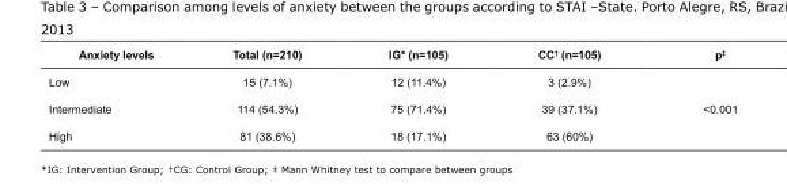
<table><tbody><tr><td>Anxiety levels</td><td>Total (n=210)</td><td>IG* (n=105)</td><td>CC<sup>†</sup> (n=105)</td><td>p<sup>‡</sup></td></tr><tr><td>Low</td><td>15 (7.1%)</td><td>12 (11.4%)</td><td>3 (2.9%)</td><td rowspan="3">&lt;0.001</td></tr><tr><td>Intermediate</td><td>114 (54.3%)</td><td>75 (71.4%)</td><td>39 (37.1%)</td></tr><tr><td>High</td><td>81 (38.6%)</td><td>18 (17.1%)</td><td>63 (60%)</td></tr></tbody></table>